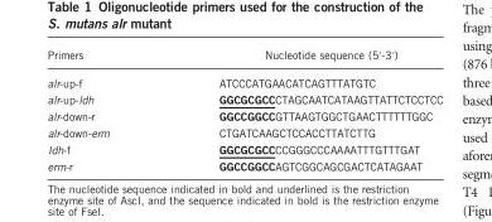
<table><thead><tr><td>Primers</td><td>Nucleotide sequence (5′-3′)</td></tr></thead><tbody><tr><td>alr-up-f</td><td>ATCCCATGAACATCAGTTTATGTC</td></tr><tr><td>alr-up-ldh</td><td>GGCGCGCCCTAGCAATCATAAGTTATTCTCCTCC</td></tr><tr><td>alr-down-r</td><td>GGCCGGCCGTTAAGTGGCTGAACTTTTTTGGC</td></tr><tr><td>alr-down-erm</td><td>CTGATCAAGCTCCACCTTATCTTG</td></tr><tr><td>Idh-f</td><td>GGCGCGCCCCGGGCCCAAAATTTGTTTGAT</td></tr><tr><td>erm-r</td><td>GGCCGGCCAGTCGGCAGCGACTCATAGAAT</td></tr></tbody></table>